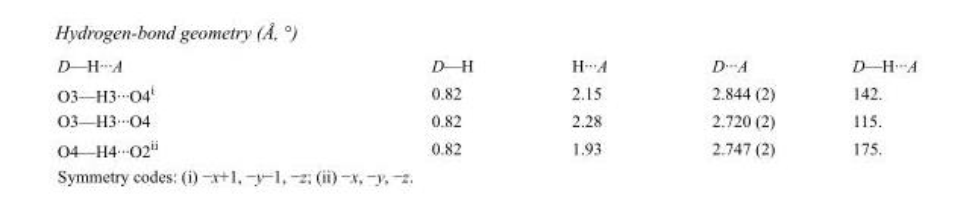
<table><tbody><tr><td>D—H···A</td><td>D—H</td><td>H···A</td><td>D···A</td><td>D—H···A</td></tr><tr><td>O3—H3···O4<sup>i</sup></td><td>0.82</td><td>2.15</td><td>2.844 (2)</td><td>142.</td></tr><tr><td>O3—H3···O4</td><td>0.82</td><td>2.28</td><td>2.720 (2)</td><td>115.</td></tr><tr><td>O4—H4···O2<sup>ii</sup></td><td>0.82</td><td>1.93</td><td>2.747 (2)</td><td>175.</td></tr></tbody></table>